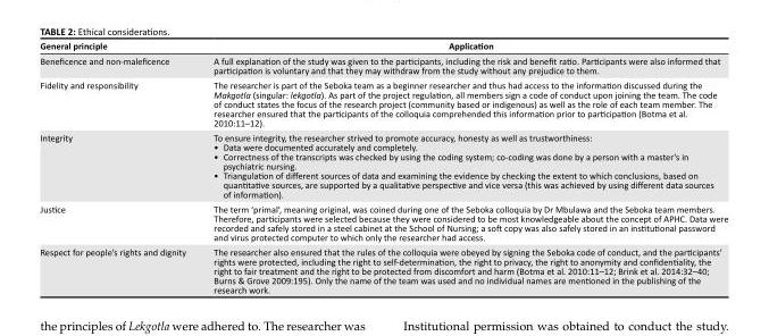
<table><thead><tr><td>General principle</td><td>Application</td></tr></thead><tbody><tr><td>Beneficence and non-maleficence</td><td>A full explanation of the study was given to the participants, including the risk and benefit ratio. Participants were also informed that participation is voluntary and that they may withdraw from the study without any prejudice to them.</td></tr><tr><td>Fidelity and responsibility</td><td>The researcher is part of the Seboka team as a beginner researcher and thus had access to the information discussed during the Makgotla (singular: lekgotla). As part of the project regulation, all members sign a code of conduct upon joining the team. The code of conduct states the focus of the research project (community based or indigenous) as well as the role of each team member. The researcher ensured that the participants of the colloquia comprehended this information prior to participation (Botma et al. 2010:11–12).</td></tr><tr><td>Integrity</td><td>To ensure integrity, the researcher strived to promote accuracy, honesty as well as trustworthiness: • Data were documented accurately and completely. • Correctness of the transcripts was checked by using the coding system; co-coding was done by a person with a master’s in psychiatric nursing. • Triangulation of different sources of data and examining the evidence by checking the extent to which conclusions, based on quantitative sources, are supported by a qualitative perspective and vice versa (this was achieved by using different data sources of information).</td></tr><tr><td>Justice</td><td>The term ‘primal’, meaning original, was coined during one of the Seboka colloquia by Dr Mbulawa and the Seboka team members. Therefore, participants were selected because they were considered to be most knowledgeable about the concept of APHC. Data were recorded and safely stored in a steel cabinet at the School of Nursing; a soft copy was also safely stored in an institutional password and virus protected computer to which only the researcher had access.</td></tr><tr><td>Respect for people’s rights and dignity</td><td>The researcher also ensured that the rules of the colloquia were obeyed by signing the Seboka code of conduct, and the participants’ rights were protected, including the right to self-determination, the right to privacy, the right to anonymity and confidentiality, the right to fair treatment and the right to be protected from discomfort and harm (Botma et al. 2010:11–12; Brink et al. 2014:32–40; Burns &amp; Grove 2009:195). Only the name of the team was used and no individual names are mentioned in the publishing of the research work.</td></tr></tbody></table>